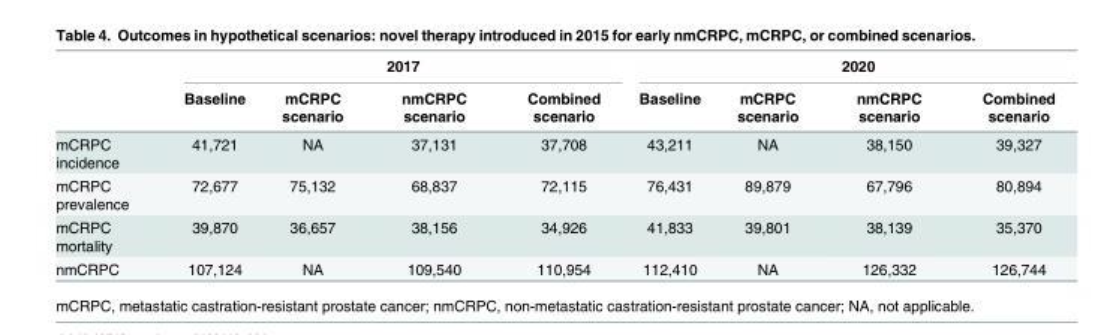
<table><thead><tr><td rowspan="2"></td><td colspan="4">2017</td><td colspan="4">2020</td></tr><tr><td>Baseline</td><td>mCRPC scenario</td><td>nmCRPC scenario</td><td>Combined scenario</td><td>Baseline</td><td>mCRPC scenario</td><td>nmCRPC scenario</td><td>Combined scenario</td></tr></thead><tbody><tr><td>mCRPC incidence</td><td>41,721</td><td>NA</td><td>37,131</td><td>37,708</td><td>43,211</td><td>NA</td><td>38,150</td><td>39,327</td></tr><tr><td>mCRPC prevalence</td><td>72,677</td><td>75,132</td><td>68,837</td><td>72,115</td><td>76,431</td><td>89,879</td><td>67,796</td><td>80,894</td></tr><tr><td>mCRPC mortality</td><td>39,870</td><td>36,657</td><td>38,156</td><td>34,926</td><td>41,833</td><td>39,801</td><td>38,139</td><td>35,370</td></tr><tr><td>nmCRPC</td><td>107,124</td><td>NA</td><td>109,540</td><td>110,954</td><td>112,410</td><td>NA</td><td>126,332</td><td>126,744</td></tr></tbody></table>